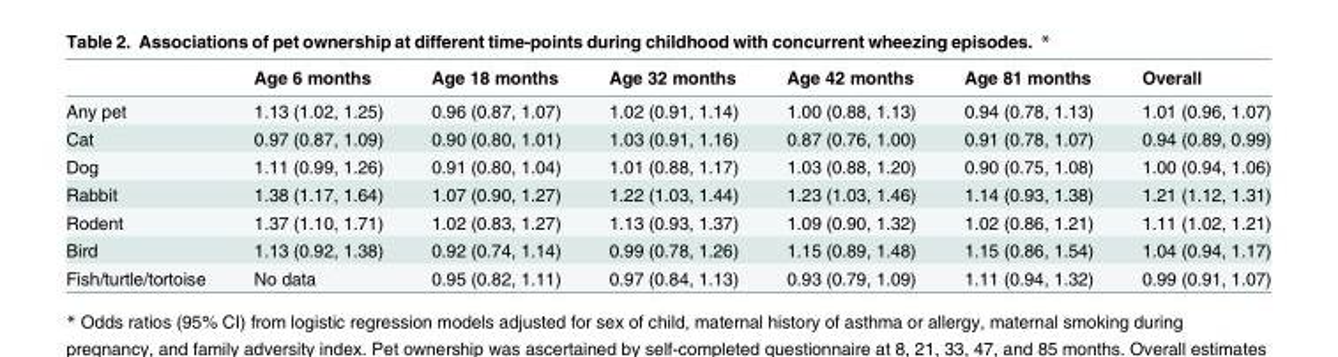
<table><thead><tr><td></td><td>Age 6 months</td><td>Age 18 months</td><td>Age 32 months</td><td>Age 42 months</td><td>Age 81 months</td><td>Overall</td></tr></thead><tbody><tr><td>Any pet</td><td>1.13 (1.02, 1.25)</td><td>0.96 (0.87, 1.07)</td><td>1.02 (0.91, 1.14)</td><td>1.00 (0.88, 1.13)</td><td>0.94 (0.78, 1.13)</td><td>1.01 (0.96, 1.07)</td></tr><tr><td>Cat</td><td>0.97 (0.87, 1.09)</td><td>0.90 (0.80, 1.01)</td><td>1.03 (0.91, 1.16)</td><td>0.87 (0.76, 1.00)</td><td>0.91 (0.78, 1.07)</td><td>0.94 (0.89, 0.99)</td></tr><tr><td>Dog</td><td>1.11 (0.99, 1.26)</td><td>0.91 (0.80, 1.04)</td><td>1.01 (0.88, 1.17)</td><td>1.03 (0.88, 1.20)</td><td>0.90 (0.75, 1.08)</td><td>1.00 (0.94, 1.06)</td></tr><tr><td>Rabbit</td><td>1.38 (1.17, 1.64)</td><td>1.07 (0.90, 1.27)</td><td>1.22 (1.03, 1.44)</td><td>1.23 (1.03, 1.46)</td><td>1.14 (0.93, 1.38)</td><td>1.21 (1.12, 1.31)</td></tr><tr><td>Rodent</td><td>1.37 (1.10, 1.71)</td><td>1.02 (0.83, 1.27)</td><td>1.13 (0.93, 1.37)</td><td>1.09 (0.90, 1.32)</td><td>1.02 (0.86, 1.21)</td><td>1.11 (1.02, 1.21)</td></tr><tr><td>Bird</td><td>1.13 (0.92, 1.38)</td><td>0.92 (0.74, 1.14)</td><td>0.99 (0.78, 1.26)</td><td>1.15 (0.89, 1.48)</td><td>1.15 (0.86, 1.54)</td><td>1.04 (0.94, 1.17)</td></tr><tr><td>Fish/turtle/tortoise</td><td>No data</td><td>0.95 (0.82, 1.11)</td><td>0.97 (0.84, 1.13)</td><td>0.93 (0.79, 1.09)</td><td>1.11 (0.94, 1.32)</td><td>0.99 (0.91, 1.07)</td></tr></tbody></table>